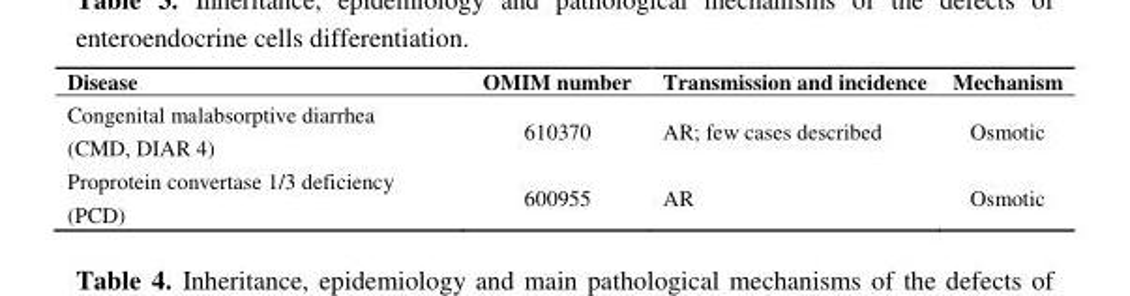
<table><thead><tr><td>Disease</td><td>OMIM number</td><td>Transmission and incidence</td><td>Mechanism</td></tr></thead><tbody><tr><td>Congenital malabsorptive diarrhea (CMD, DIAR 4)</td><td>610370</td><td>AR; few cases described</td><td>Osmotic</td></tr><tr><td>Proprotein convertase 1/3 deficiency (PCD)</td><td>600955</td><td>AR</td><td>Osmotic</td></tr></tbody></table>